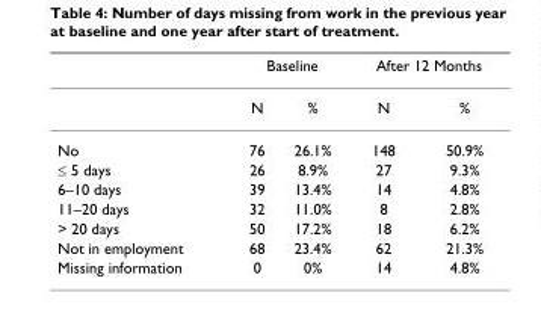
<table><thead><tr><td rowspan="2"></td><td colspan="2">Baseline</td><td colspan="2">After 12 Months</td></tr><tr><td>N</td><td>%</td><td>N</td><td>%</td></tr></thead><tbody><tr><td>No</td><td>76</td><td>26.1%</td><td>148</td><td>50.9%</td></tr><tr><td>≤ 5 days</td><td>26</td><td>8.9%</td><td>27</td><td>9.3%</td></tr><tr><td>6–10 days</td><td>39</td><td>13.4%</td><td>14</td><td>4.8%</td></tr><tr><td>11–20 days</td><td>32</td><td>11.0%</td><td>8</td><td>2.8%</td></tr><tr><td>&gt; 20 days</td><td>50</td><td>17.2%</td><td>18</td><td>6.2%</td></tr><tr><td>Not in employment</td><td>68</td><td>23.4%</td><td>62</td><td>21.3%</td></tr><tr><td>Missing information</td><td>0</td><td>0%</td><td>14</td><td>4.8%</td></tr></tbody></table>